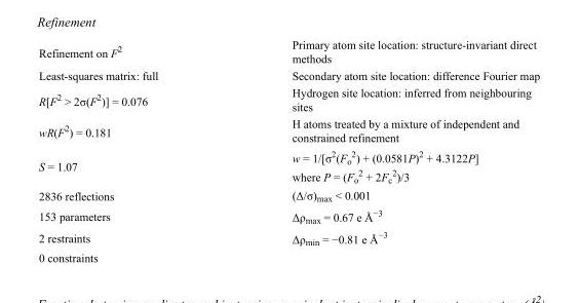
<table><tbody><tr><td>Refinement on F<sup>2</sup></td><td>Primary atom site location: structure-invariant direct methods</td></tr><tr><td>Least-squares matrix: full</td><td>Secondary atom site location: difference Fourier map</td></tr><tr><td>R[F<sup>2</sup> &gt; 2σ(F<sup>2</sup>)] = 0.076</td><td>Hydrogen site location: inferred from neighbouring sites</td></tr><tr><td>wR(F<sup>2</sup>) = 0.181</td><td>H atoms treated by a mixture of independent and constrained refinement</td></tr><tr><td>S = 1.07</td><td>w = 1/[σ<sup>2</sup>(F<sub>o</sub> <sup>2</sup>) + (0.0581P)<sup>2</sup> + 4.3122P] where P = (F<sub>o</sub> <sup>2</sup> + 2F<sub>c</sub> <sup>2</sup>)/3</td></tr><tr><td>2836 reflections</td><td>(Δ/σ)<sub>max</sub> &lt; 0.001</td></tr><tr><td>153 parameters</td><td>Δρ<sub>max</sub> = 0.67 e Å<sup>−3</sup></td></tr><tr><td>2 restraints</td><td>Δρ<sub>min</sub> = −0.81 e Å<sup>−3</sup></td></tr><tr><td>0 constraints</td><td></td></tr></tbody></table>